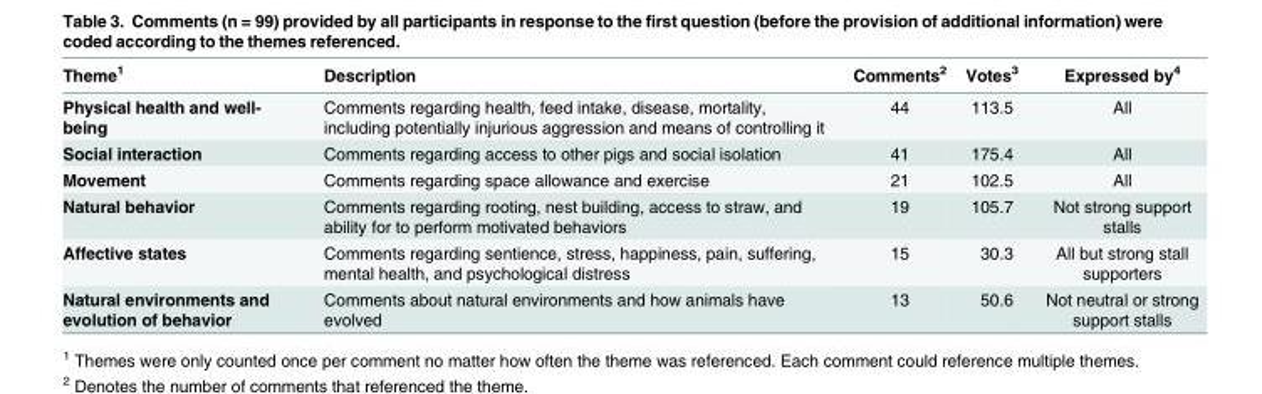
<table><thead><tr><td>Theme<sup>1</sup></td><td>Description</td><td>Comments<sup>2</sup></td><td>Votes<sup>3</sup></td><td>Expressed by<sup>4</sup></td></tr></thead><tbody><tr><td>Physical health and well- being</td><td>Comments regarding health, feed intake, disease, mortality, including potentially injurious aggression and means of controlling it</td><td>44</td><td>113.5</td><td>All</td></tr><tr><td>Social interaction</td><td>Comments regarding access to other pigs and social isolation</td><td>41</td><td>175.4</td><td>All</td></tr><tr><td>Movement</td><td>Comments regarding space allowance and exercise</td><td>21</td><td>102.5</td><td>All</td></tr><tr><td>Natural behavior</td><td>Comments regarding rooting, nest building, access to straw, and ability for to perform motivated behaviors</td><td>19</td><td>105.7</td><td>Not strong support stalls</td></tr><tr><td>Affective states</td><td>Comments regarding sentience, stress, happiness, pain, suffering, mental health, and psychological distress</td><td>15</td><td>30.3</td><td>All but strong stall supporters</td></tr><tr><td>Natural environments and evolution of behavior</td><td>Comments about natural environments and how animals have evolved</td><td>13</td><td>50.6</td><td>Not neutral or strong support stalls</td></tr></tbody></table>